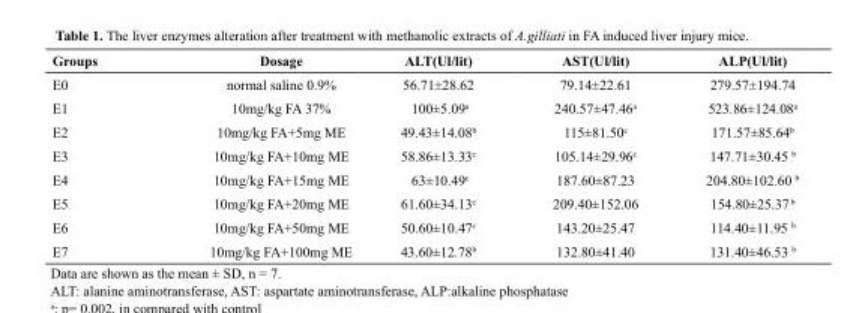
<table><thead><tr><td>Groups</td><td>Dosage</td><td>ALT(Ul/lit)</td><td>AST(Ul/lit)</td><td>ALP(Ul/lit)</td></tr></thead><tbody><tr><td>E0</td><td>normal saline 0.9%</td><td>56.71±28.62</td><td>79.14±22.61</td><td>279.57±194.74</td></tr><tr><td>E1</td><td>10mg/kg FA 37%</td><td>100±5.09<sup>a</sup></td><td>240.57±47.46<sup>a</sup></td><td>523.86±124.08<sup>a</sup></td></tr><tr><td>E2</td><td>10mg/kg FA+5mg ME</td><td>49.43±14.08<sup>b</sup></td><td>115±81.50<sup>c</sup></td><td>171.57±85.64<sup>b</sup></td></tr><tr><td>E3</td><td>10mg/kg FA+10mg ME</td><td>58.86±13.33<sup>c</sup></td><td>105.14±29.96<sup>c</sup></td><td>147.71±30.45 b</td></tr><tr><td>E4</td><td>10mg/kg FA+15mg ME</td><td>63±10.49<sup>c</sup></td><td>187.60±87.23</td><td>204.80±102.60 b</td></tr><tr><td>E5</td><td>10mg/kg FA+20mg ME</td><td>61.60±34.13<sup>c</sup></td><td>209.40±152.06</td><td>154.80±25.37 b</td></tr><tr><td>E6</td><td>10mg/kg FA+50mg ME</td><td>50.60±10.47<sup>c</sup></td><td>143.20±25.47</td><td>114.40±11.95 b</td></tr><tr><td>E7</td><td>10mg/kg FA+100mg ME</td><td>43.60±12.78<sup>b</sup></td><td>132.80±41.40</td><td>131.40±46.53 b</td></tr></tbody></table>